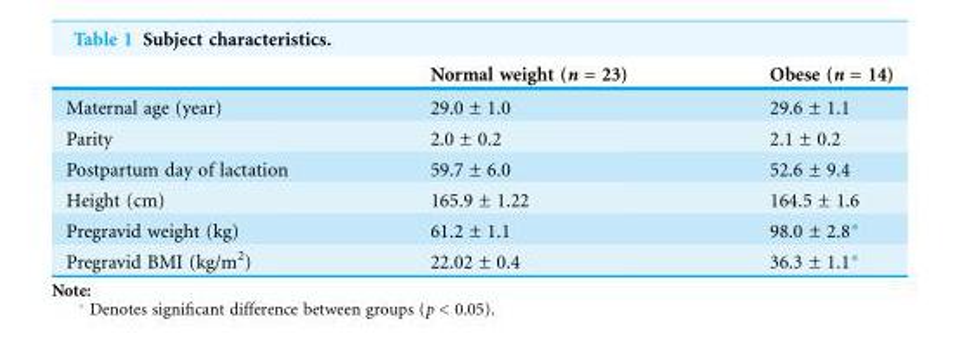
<table><thead><tr><td></td><td>Normal weight (n = 23)</td><td>Obese (n = 14)</td></tr></thead><tbody><tr><td>Maternal age (year)</td><td>29.0 ± 1.0</td><td>29.6 ± 1.1</td></tr><tr><td>Parity</td><td>2.0 ± 0.2</td><td>2.1 ± 0.2</td></tr><tr><td>Postpartum day of lactation</td><td>59.7 ± 6.0</td><td>52.6 ± 9.4</td></tr><tr><td>Height (cm)</td><td>165.9 ± 1.22</td><td>164.5 ± 1.6</td></tr><tr><td>Pregravid weight (kg)</td><td>61.2 ± 1.1</td><td>98.0 ± 2.8*</td></tr><tr><td>Pregravid BMI (kg/m<sup>2</sup>)</td><td>22.02 ± 0.4</td><td>36.3 ± 1.1*</td></tr></tbody></table>